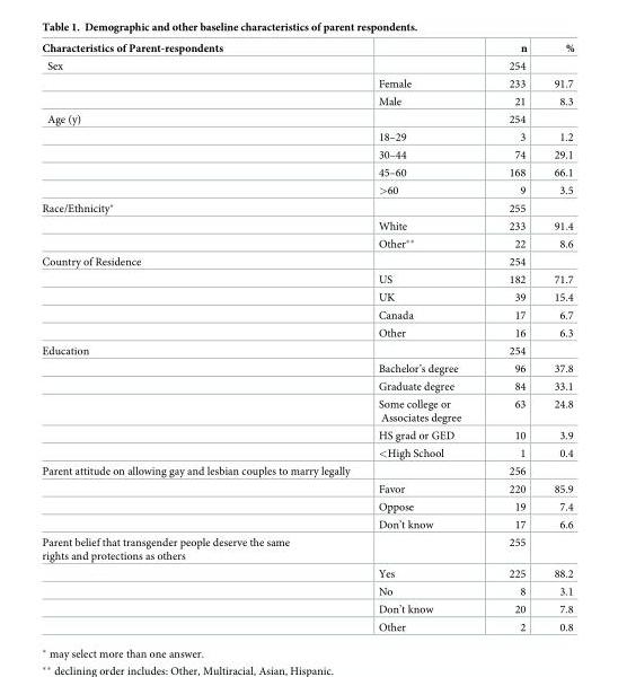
<table><thead><tr><td>Characteristics of Parent-respondents</td><td></td><td>n</td><td>%</td></tr></thead><tbody><tr><td rowspan="3">Sex</td><td></td><td>254</td><td></td></tr><tr><td>Female</td><td>233</td><td>91.7</td></tr><tr><td>Male</td><td>21</td><td>8.3</td></tr><tr><td rowspan="5">Age (y)</td><td></td><td>254</td><td></td></tr><tr><td>18–29</td><td>3</td><td>1.2</td></tr><tr><td>30–44</td><td>74</td><td>29.1</td></tr><tr><td>45–60</td><td>168</td><td>66.1</td></tr><tr><td>&gt;60</td><td>9</td><td>3.5</td></tr><tr><td rowspan="3">Race/Ethnicity*</td><td></td><td>255</td><td></td></tr><tr><td>White</td><td>233</td><td>91.4</td></tr><tr><td>Other**</td><td>22</td><td>8.6</td></tr><tr><td rowspan="5">Country of Residence</td><td></td><td>254</td><td></td></tr><tr><td>US</td><td>182</td><td>71.7</td></tr><tr><td>UK</td><td>39</td><td>15.4</td></tr><tr><td>Canada</td><td>17</td><td>6.7</td></tr><tr><td>Other</td><td>16</td><td>6.3</td></tr><tr><td rowspan="6">Education</td><td></td><td>254</td><td></td></tr><tr><td>Bachelor’s degree</td><td>96</td><td>37.8</td></tr><tr><td>Graduate degree</td><td>84</td><td>33.1</td></tr><tr><td>Some college or Associates degree</td><td>63</td><td>24.8</td></tr><tr><td>HS grad or GED</td><td>10</td><td>3.9</td></tr><tr><td>&lt;High School</td><td>1</td><td>0.4</td></tr><tr><td rowspan="4">Parent attitude on allowing gay and lesbian couples to marry legally</td><td></td><td>256</td><td></td></tr><tr><td>Favor</td><td>220</td><td>85.9</td></tr><tr><td>Oppose</td><td>19</td><td>7.4</td></tr><tr><td>Don’t know</td><td>17</td><td>6.6</td></tr><tr><td rowspan="5">Parent belief that transgender people deserve the same rights and protections as others</td><td></td><td>255</td><td></td></tr><tr><td>Yes</td><td>225</td><td>88.2</td></tr><tr><td>No</td><td>8</td><td>3.1</td></tr><tr><td>Don’t know</td><td>20</td><td>7.8</td></tr><tr><td>Other</td><td>2</td><td>0.8</td></tr></tbody></table>